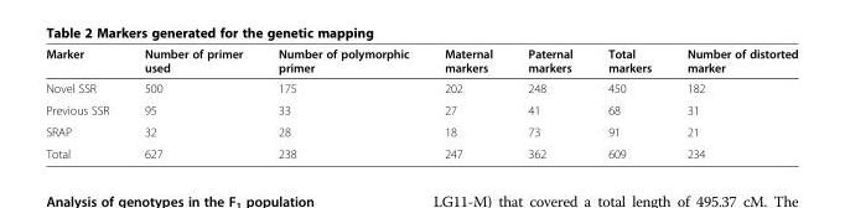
<table><thead><tr><td>Marker</td><td>Number of primer used</td><td>Number of polymorphic primer</td><td>Maternal markers</td><td>Paternal markers</td><td>Total markers</td><td>Number of distorted marker</td></tr></thead><tbody><tr><td>Novel SSR</td><td>500</td><td>175</td><td>202</td><td>248</td><td>450</td><td>182</td></tr><tr><td>Previous SSR</td><td>95</td><td>33</td><td>27</td><td>41</td><td>68</td><td>31</td></tr><tr><td>SRAP</td><td>32</td><td>28</td><td>18</td><td>73</td><td>91</td><td>21</td></tr><tr><td>Total</td><td>627</td><td>238</td><td>247</td><td>362</td><td>609</td><td>234</td></tr></tbody></table>